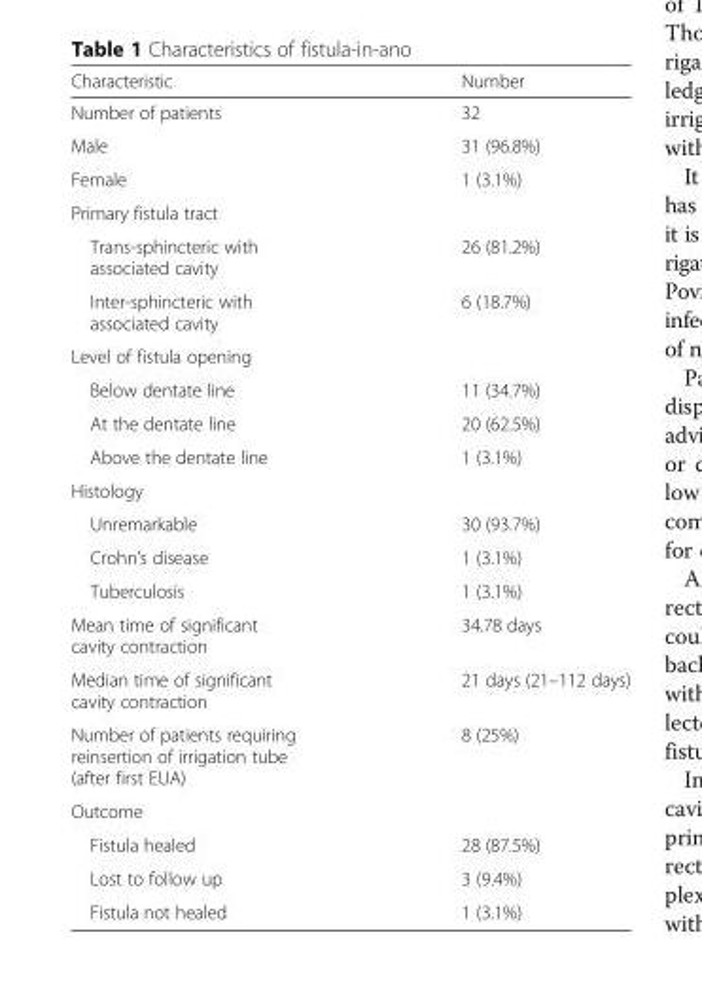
<table><thead><tr><td>Characteristic</td><td>Number</td></tr></thead><tbody><tr><td>Number of patients</td><td>32</td></tr><tr><td>Male</td><td>31 (96.8%)</td></tr><tr><td>Female</td><td>1 (3.1%)</td></tr><tr><td colspan="2">Primary fistula tract</td></tr><tr><td>Trans-sphincteric with associated cavity</td><td>26 (81.2%)</td></tr><tr><td>Inter-sphincteric with associated cavity</td><td>6 (18.7%)</td></tr><tr><td colspan="2">Level of fistula opening</td></tr><tr><td>Below dentate line</td><td>11 (34.7%)</td></tr><tr><td>At the dentate line</td><td>20 (62.5%)</td></tr><tr><td>Above the dentate line</td><td>1 (3.1%)</td></tr><tr><td colspan="2">Histology</td></tr><tr><td>Unremarkable</td><td>30 (93.7%)</td></tr><tr><td>Crohn’s disease</td><td>1 (3.1%)</td></tr><tr><td>Tuberculosis</td><td>1 (3.1%)</td></tr><tr><td>Mean time of significant cavity contraction</td><td>34.78 days</td></tr><tr><td>Median time of significant cavity contraction</td><td>21 days (21–112 days)</td></tr><tr><td>Number of patients requiring reinsertion of irrigation tube (after first EUA)</td><td>8 (25%)</td></tr><tr><td colspan="2">Outcome</td></tr><tr><td>Fistula healed</td><td>28 (87.5%)</td></tr><tr><td>Lost to follow up</td><td>3 (9.4%)</td></tr><tr><td>Fistula not healed</td><td>1 (3.1%)</td></tr></tbody></table>